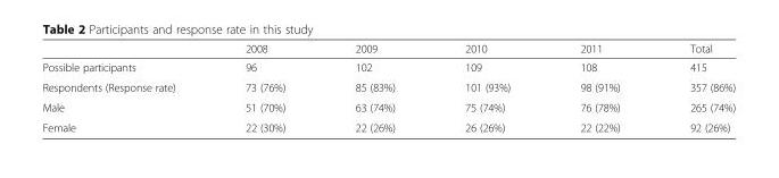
<table><thead><tr><td></td><td>2008</td><td>2009</td><td>2010</td><td>2011</td><td>Total</td></tr></thead><tbody><tr><td>Possible participants</td><td>96</td><td>102</td><td>109</td><td>108</td><td>415</td></tr><tr><td>Respondents (Response rate)</td><td>73 (76%)</td><td>85 (83%)</td><td>101 (93%)</td><td>98 (91%)</td><td>357 (86%)</td></tr><tr><td>Male</td><td>51 (70%)</td><td>63 (74%)</td><td>75 (74%)</td><td>76 (78%)</td><td>265 (74%)</td></tr><tr><td>Female</td><td>22 (30%)</td><td>22 (26%)</td><td>26 (26%)</td><td>22 (22%)</td><td>92 (26%)</td></tr></tbody></table>